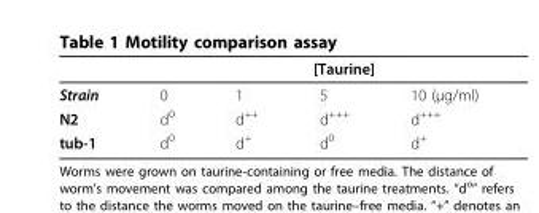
<table><thead><tr><td rowspan="2">Strain</td><td colspan="4">[Taurine]</td></tr><tr><td>0</td><td>1</td><td>5</td><td>10 (μg/ml)</td></tr></thead><tbody><tr><td>N2</td><td>d<sup>0</sup></td><td>d<sup>++</sup></td><td>d<sup>+++</sup></td><td>d<sup>+++</sup></td></tr><tr><td>tub-1</td><td>d<sup>0</sup></td><td>d<sup>+</sup></td><td>d<sup>0</sup></td><td>d<sup>+</sup></td></tr></tbody></table>